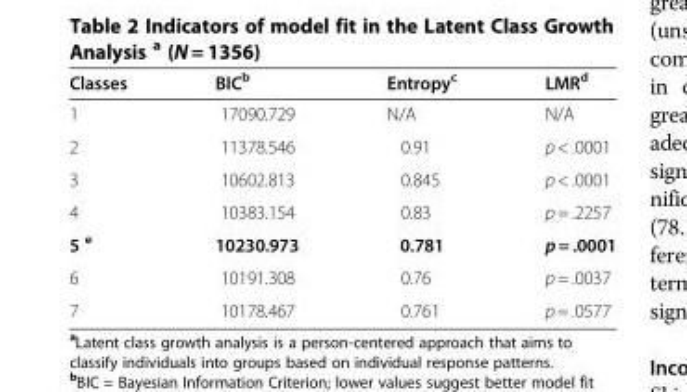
<table><thead><tr><td>Classes</td><td>BIC<sup>b</sup></td><td>Entropy<sup>c</sup></td><td>LMR<sup>d</sup></td></tr></thead><tbody><tr><td>1</td><td>17090.729</td><td>N/A</td><td>N/A</td></tr><tr><td>2</td><td>11378.546</td><td>0.91</td><td>p &lt; .0001</td></tr><tr><td>3</td><td>10602.813</td><td>0.845</td><td>p &lt; .0001</td></tr><tr><td>4</td><td>10383.154</td><td>0.83</td><td>p = .2257</td></tr><tr><td>5 <sup>e</sup></td><td>10230.973</td><td>0.781</td><td>p = .0001</td></tr><tr><td>6</td><td>10191.308</td><td>0.76</td><td>p = .0037</td></tr><tr><td>7</td><td>10178.467</td><td>0.761</td><td>p = .0577</td></tr></tbody></table>